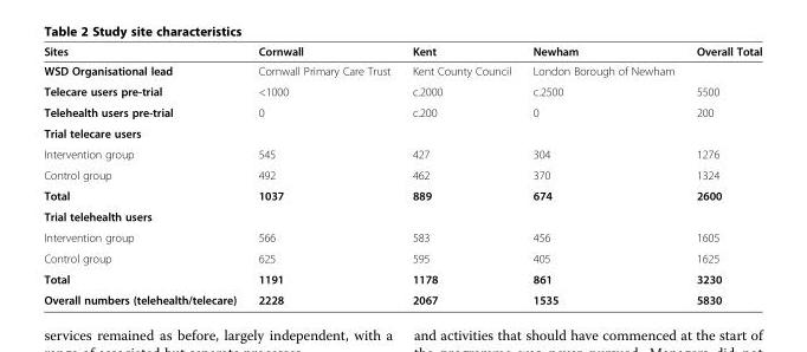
<table><thead><tr><td>Sites</td><td>Cornwall</td><td>Kent</td><td>Newham</td><td>Overall Total</td></tr></thead><tbody><tr><td>WSD Organisational lead</td><td>Cornwall Primary Care Trust</td><td>Kent County Council</td><td>London Borough of Newham</td><td></td></tr><tr><td>Telecare users pre-trial</td><td>&lt;1000</td><td>c.2000</td><td>c.2500</td><td>5500</td></tr><tr><td>Telehealth users pre-trial</td><td>0</td><td>c.200</td><td>0</td><td>200</td></tr><tr><td colspan="5">Trial telecare users</td></tr><tr><td>Intervention group</td><td>545</td><td>427</td><td>304</td><td>1276</td></tr><tr><td>Control group</td><td>492</td><td>462</td><td>370</td><td>1324</td></tr><tr><td>Total</td><td>1037</td><td>889</td><td>674</td><td>2600</td></tr><tr><td colspan="5">Trial telehealth users</td></tr><tr><td>Intervention group</td><td>566</td><td>583</td><td>456</td><td>1605</td></tr><tr><td>Control group</td><td>625</td><td>595</td><td>405</td><td>1625</td></tr><tr><td>Total</td><td>1191</td><td>1178</td><td>861</td><td>3230</td></tr><tr><td>Overall numbers (telehealth/telecare)</td><td>2228</td><td>2067</td><td>1535</td><td>5830</td></tr></tbody></table>